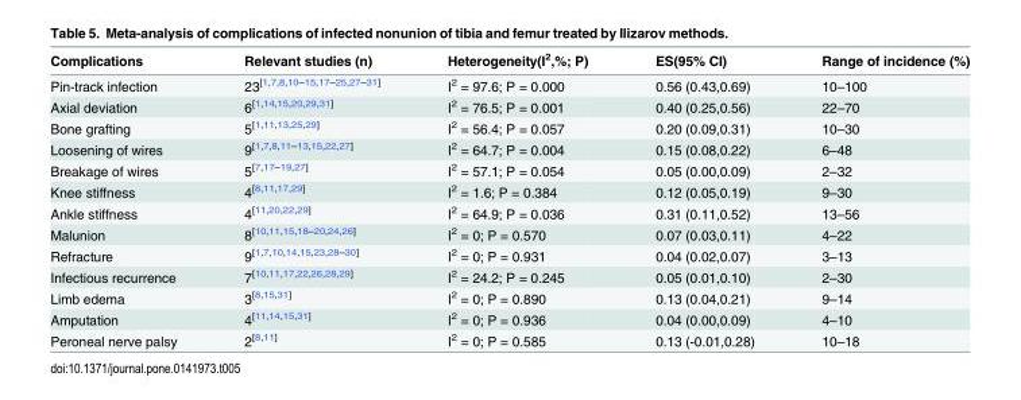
<table><thead><tr><td>Complications</td><td>Relevant studies (n)</td><td>Heterogeneity(I<sup>2</sup>,%; P)</td><td>ES(95% CI)</td><td>Range of incidence (%)</td></tr></thead><tbody><tr><td>Pin-track infection</td><td>23<sup>[1,7,8,10–15,17–25,27–31]</sup></td><td>I<sup>2</sup> = 97.6; P = 0.000</td><td>0.56 (0.43,0.69)</td><td>10–100</td></tr><tr><td>Axial deviation</td><td>6<sup>[1,14,15,20,29,31]</sup></td><td>I<sup>2</sup> = 76.5; P = 0.001</td><td>0.40 (0.25,0.56)</td><td>22–70</td></tr><tr><td>Bone grafting</td><td>5<sup>[1,11,13,25,29]</sup></td><td>I<sup>2</sup> = 56.4; P = 0.057</td><td>0.20 (0.09,0.31)</td><td>10–30</td></tr><tr><td>Loosening of wires</td><td>9<sup>[1,7,8,11–13,15,22,27]</sup></td><td>I<sup>2</sup> = 64.7; P = 0.004</td><td>0.15 (0.08,0.22)</td><td>6–48</td></tr><tr><td>Breakage of wires</td><td>5<sup>[7,17–19,27]</sup></td><td>I<sup>2</sup> = 57.1; P = 0.054</td><td>0.05 (0.00,0.09)</td><td>2–32</td></tr><tr><td>Knee stiffness</td><td>4<sup>[8,11,17,29]</sup></td><td>I<sup>2</sup> = 1.6; P = 0.384</td><td>0.12 (0.05,0.19)</td><td>9–30</td></tr><tr><td>Ankle stiffness</td><td>4<sup>[11,20,22,29]</sup></td><td>I<sup>2</sup> = 64.9; P = 0.036</td><td>0.31 (0.11,0.52)</td><td>13–56</td></tr><tr><td>Malunion</td><td>8<sup>[10,11,15,18–20,24,26]</sup></td><td>I<sup>2</sup> = 0; P = 0.570</td><td>0.07 (0.03,0.11)</td><td>4–22</td></tr><tr><td>Refracture</td><td>9<sup>[1,7,10,14,15,23,28–30]</sup></td><td>I<sup>2</sup> = 0; P = 0.931</td><td>0.04 (0.02,0.07)</td><td>3–13</td></tr><tr><td>Infectious recurrence</td><td>7<sup>[10,11,17,22,26,28,29]</sup></td><td>I<sup>2</sup> = 24.2; P = 0.245</td><td>0.05 (0.01,0.10)</td><td>2–30</td></tr><tr><td>Limb edema</td><td>3<sup>[8,15,31]</sup></td><td>I<sup>2</sup> = 0; P = 0.890</td><td>0.13 (0.04,0.21)</td><td>9–14</td></tr><tr><td>Amputation</td><td>4<sup>[11,14,15,31]</sup></td><td>I<sup>2</sup> = 0; P = 0.936</td><td>0.04 (0.00,0.09)</td><td>4–10</td></tr><tr><td>Peroneal nerve palsy</td><td>2<sup>[8,11]</sup></td><td>I<sup>2</sup> = 0; P = 0.585</td><td>0.13 (-0.01,0.28)</td><td>10–18</td></tr></tbody></table>